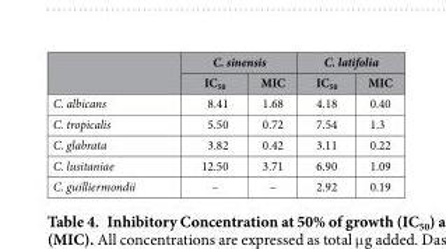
<table><thead><tr><td rowspan="2"></td><td colspan="2">C. sinensis</td><td colspan="2">C. latifolia</td></tr><tr><td>IC<sub>50</sub></td><td>MIC</td><td>IC<sub>50</sub></td><td>MIC</td></tr></thead><tbody><tr><td>C. albicans</td><td>8.41</td><td>1.68</td><td>4.18</td><td>0.40</td></tr><tr><td>C. tropicalis</td><td>5.50</td><td>0.72</td><td>7.54</td><td>1.3</td></tr><tr><td>C. glabrata</td><td>3.82</td><td>0.42</td><td>3.11</td><td>0.22</td></tr><tr><td>C. lusitaniae</td><td>12.50</td><td>3.71</td><td>6.90</td><td>1.09</td></tr><tr><td>C. guilliermondii</td><td>–</td><td>–</td><td>2.92</td><td>0.19</td></tr></tbody></table>